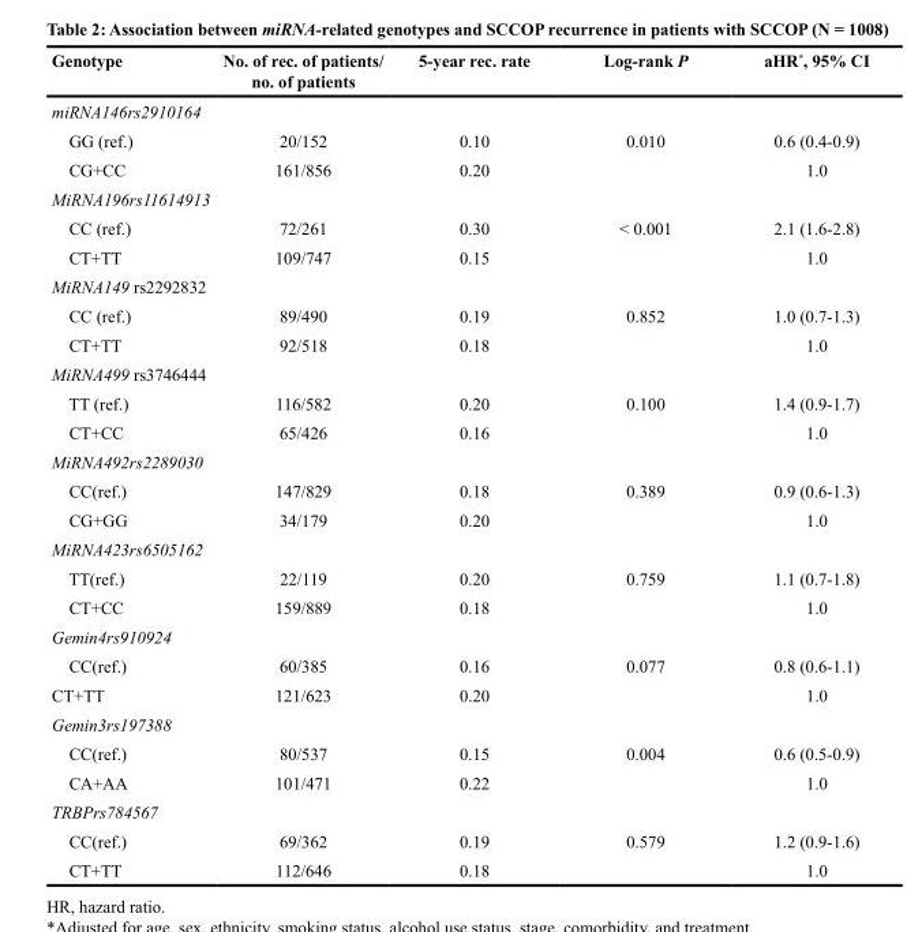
<table><thead><tr><td>Genotype</td><td>No. of rec. of patients/ no. of patients</td><td>5-year rec. rate</td><td>Log-rank P</td><td>aHR*, 95% CI</td></tr></thead><tbody><tr><td colspan="5">miRNA146rs2910164</td></tr><tr><td>GG (ref.)</td><td>20/152</td><td>0.10</td><td>0.010</td><td>0.6 (0.4-0.9)</td></tr><tr><td>CG+CC</td><td>161/856</td><td>0.20</td><td></td><td>1.0</td></tr><tr><td colspan="5">MiRNA196rs11614913</td></tr><tr><td>CC (ref.)</td><td>72/261</td><td>0.30</td><td>&lt; 0.001</td><td>2.1 (1.6-2.8)</td></tr><tr><td>CT+TT</td><td>109/747</td><td>0.15</td><td></td><td>1.0</td></tr><tr><td colspan="5">MiRNA149 rs2292832</td></tr><tr><td>CC (ref.)</td><td>89/490</td><td>0.19</td><td>0.852</td><td>1.0 (0.7-1.3)</td></tr><tr><td>CT+TT</td><td>92/518</td><td>0.18</td><td></td><td>1.0</td></tr><tr><td colspan="5">MiRNA499 rs3746444</td></tr><tr><td>TT (ref.)</td><td>116/582</td><td>0.20</td><td>0.100</td><td>1.4 (0.9-1.7)</td></tr><tr><td>CT+CC</td><td>65/426</td><td>0.16</td><td></td><td>1.0</td></tr><tr><td colspan="5">MiRNA492rs2289030</td></tr><tr><td>CC(ref.)</td><td>147/829</td><td>0.18</td><td>0.389</td><td>0.9 (0.6-1.3)</td></tr><tr><td>CG+GG</td><td>34/179</td><td>0.20</td><td></td><td>1.0</td></tr><tr><td colspan="5">MiRNA423rs6505162</td></tr><tr><td>TT(ref.)</td><td>22/119</td><td>0.20</td><td>0.759</td><td>1.1 (0.7-1.8)</td></tr><tr><td>CT+CC</td><td>159/889</td><td>0.18</td><td></td><td>1.0</td></tr><tr><td colspan="5">Gemin4rs910924</td></tr><tr><td>CC(ref.)</td><td>60/385</td><td>0.16</td><td>0.077</td><td>0.8 (0.6-1.1)</td></tr><tr><td>CT+TT</td><td>121/623</td><td>0.20</td><td></td><td>1.0</td></tr><tr><td colspan="5">Gemin3rs197388</td></tr><tr><td>CC(ref.)</td><td>80/537</td><td>0.15</td><td>0.004</td><td>0.6 (0.5-0.9)</td></tr><tr><td>CA+AA</td><td>101/471</td><td>0.22</td><td></td><td>1.0</td></tr><tr><td colspan="5">TRBPrs784567</td></tr><tr><td>CC(ref.)</td><td>69/362</td><td>0.19</td><td>0.579</td><td>1.2 (0.9-1.6)</td></tr><tr><td>CT+TT</td><td>112/646</td><td>0.18</td><td></td><td>1.0</td></tr></tbody></table>